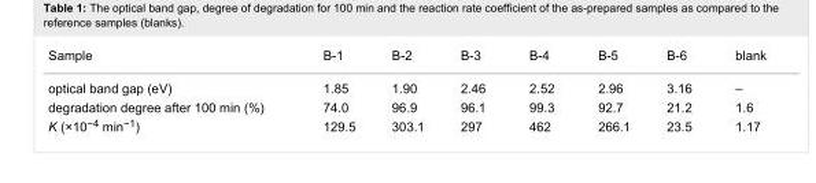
<table><tbody><tr><td>Sample</td><td>B-1</td><td>B-2</td><td>B-3</td><td>B-4</td><td>B-5</td><td>B-6</td><td>blank</td></tr><tr><td>optical band gap (eV)</td><td>1.85</td><td>1.90</td><td>2.46</td><td>2.52</td><td>2.96</td><td>3.16</td><td>–</td></tr><tr><td>degradation degree after 100 min (%)</td><td>74.0</td><td>96.9</td><td>96.1</td><td>99.3</td><td>92.7</td><td>21.2</td><td>1.6</td></tr><tr><td>K (×10<sup>−4</sup> min<sup>−1</sup>)</td><td>129.5</td><td>303.1</td><td>297</td><td>462</td><td>266.1</td><td>23.5</td><td>1.17</td></tr></tbody></table>